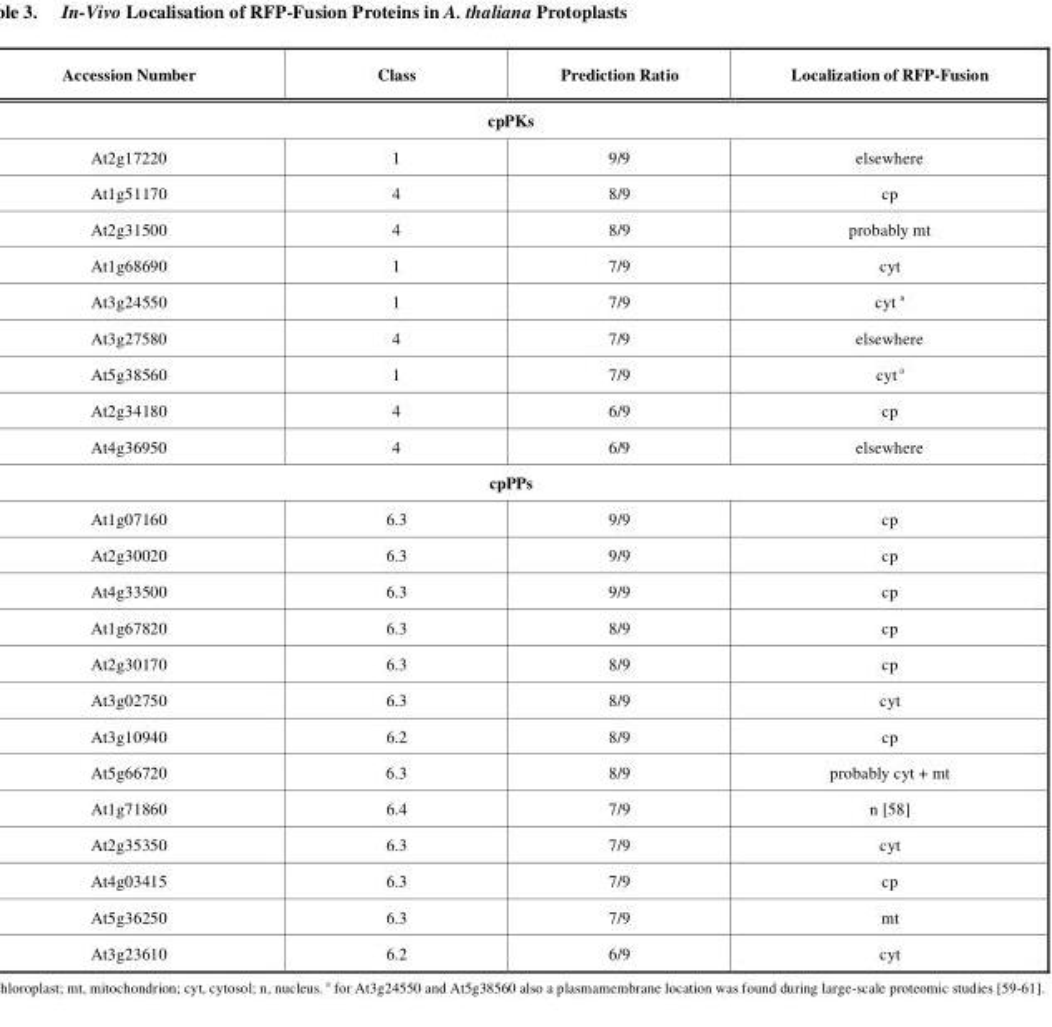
<table><thead><tr><td>Accession Number</td><td>Class</td><td>Prediction Ratio</td><td>Localization of RFP-Fusion</td></tr><tr><td colspan="4">cpPKs</td></tr></thead><tbody><tr><td>At2g17220</td><td>1</td><td>9/9</td><td>elsewhere</td></tr><tr><td>At1g51170</td><td>4</td><td>8/9</td><td>cp</td></tr><tr><td>At2g31500</td><td>4</td><td>8/9</td><td>probably mt</td></tr><tr><td>At1g68690</td><td>1</td><td>7/9</td><td>cyt</td></tr><tr><td>At3g24550</td><td>1</td><td>7/9</td><td>cyt a</td></tr><tr><td>At3g27580</td><td>4</td><td>7/9</td><td>elsewhere</td></tr><tr><td>At5g38560</td><td>1</td><td>7/9</td><td>cyt a</td></tr><tr><td>At2g34180</td><td>4</td><td>6/9</td><td>cp</td></tr><tr><td>At4g36950</td><td>4</td><td>6/9</td><td>elsewhere</td></tr><tr><td colspan="4">cpPPs</td></tr><tr><td>At1g07160</td><td>6.3</td><td>9/9</td><td>cp</td></tr><tr><td>At2g30020</td><td>6.3</td><td>9/9</td><td>cp</td></tr><tr><td>At4g33500</td><td>6.3</td><td>9/9</td><td>cp</td></tr><tr><td>At1g67820</td><td>6.3</td><td>8/9</td><td>cp</td></tr><tr><td>At2g30170</td><td>6.3</td><td>8/9</td><td>cp</td></tr><tr><td>At3g02750</td><td>6.3</td><td>8/9</td><td>cyt</td></tr><tr><td>At3g10940</td><td>6.2</td><td>8/9</td><td>cp</td></tr><tr><td>At5g66720</td><td>6.3</td><td>8/9</td><td>probably cyt + mt</td></tr><tr><td>At1g71860</td><td>6.4</td><td>7/9</td><td>n [58]</td></tr><tr><td>At2g35350</td><td>6.3</td><td>7/9</td><td>cyt</td></tr><tr><td>At4g03415</td><td>6.3</td><td>7/9</td><td>cp</td></tr><tr><td>At5g36250</td><td>6.3</td><td>7/9</td><td>mt</td></tr><tr><td>At3g23610</td><td>6.2</td><td>6/9</td><td>cyt</td></tr></tbody></table>